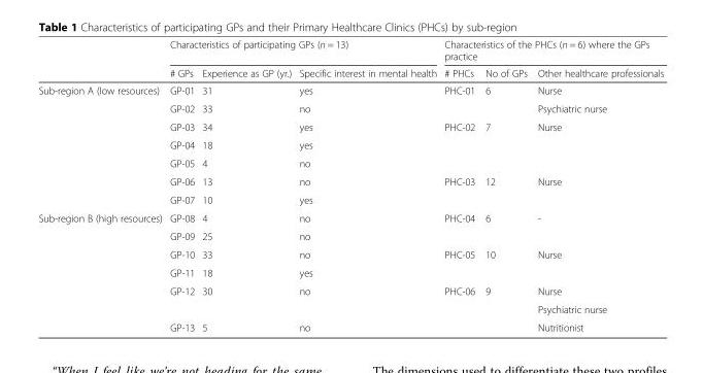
<table><thead><tr><td rowspan="2"></td><td colspan="3">Characteristics of participating GPs (n = 13)</td><td colspan="3">Characteristics of the PHCs (n = 6) where the GPs practice</td></tr><tr><td># GPs</td><td>Experience as GP (yr.)</td><td>Specific interest in mental health</td><td># PHCs</td><td>No of GPs</td><td>Other healthcare professionals</td></tr></thead><tbody><tr><td rowspan="7">Sub-region A (low resources)</td><td>GP-01</td><td>31</td><td>yes</td><td rowspan="2">PHC-01</td><td rowspan="2">6</td><td>Nurse</td></tr><tr><td>GP-02</td><td>33</td><td>no</td><td>Psychiatric nurse</td></tr><tr><td>GP-03</td><td>34</td><td>yes</td><td rowspan="3">PHC-02</td><td rowspan="3">7</td><td rowspan="3">Nurse</td></tr><tr><td>GP-04</td><td>18</td><td>yes</td></tr><tr><td>GP-05</td><td>4</td><td>no</td></tr><tr><td>GP-06</td><td>13</td><td>no</td><td rowspan="2">PHC-03</td><td rowspan="2">12</td><td rowspan="2">Nurse</td></tr><tr><td>GP-07</td><td>10</td><td>yes</td></tr><tr><td rowspan="7">Sub-region B (high resources)</td><td>GP-08</td><td>4</td><td>no</td><td rowspan="2">PHC-04</td><td rowspan="2">6</td><td rowspan="2">-</td></tr><tr><td>GP-09</td><td>25</td><td>no</td></tr><tr><td>GP-10</td><td>33</td><td>no</td><td rowspan="2">PHC-05</td><td rowspan="2">10</td><td rowspan="2">Nurse</td></tr><tr><td>GP-11</td><td>18</td><td>yes</td></tr><tr><td rowspan="2">GP-12</td><td rowspan="2">30</td><td rowspan="2">no</td><td rowspan="3">PHC-06</td><td rowspan="3">9</td><td>Nurse</td></tr><tr><td>Psychiatric nurse</td></tr><tr><td>GP-13</td><td>5</td><td>no</td><td>Nutritionist</td></tr></tbody></table>